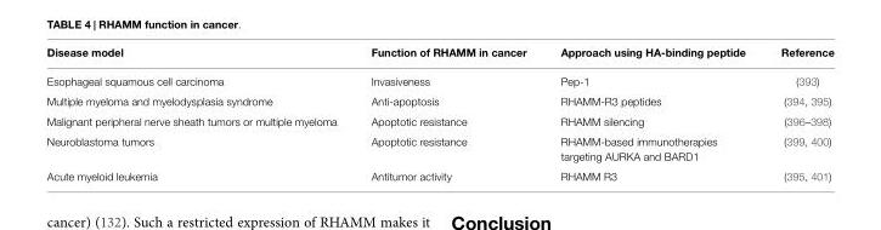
<table><thead><tr><td>Disease model</td><td>Function of RHAMM in cancer</td><td>Approach using HA-binding peptide</td><td>Reference</td></tr></thead><tbody><tr><td>Esophageal squamous cell carcinoma</td><td>Invasiveness</td><td>Pep-1</td><td>(393)</td></tr><tr><td>Multiple myeloma and myelodysplasia syndrome</td><td>Anti-apoptosis</td><td>RHAMM-R3 peptides</td><td>(394, 395)</td></tr><tr><td>Malignant peripheral nerve sheath tumors or multiple myeloma</td><td>Apoptotic resistance</td><td>RHAMM silencing</td><td>(396–398)</td></tr><tr><td>Neuroblastoma tumors</td><td>Apoptotic resistance</td><td>RHAMM-based immunotherapies targeting AURKA and BARD1</td><td>(399, 400)</td></tr><tr><td>Acute myeloid leukemia</td><td>Antitumor activity</td><td>RHAMM R3</td><td>(395, 401)</td></tr></tbody></table>